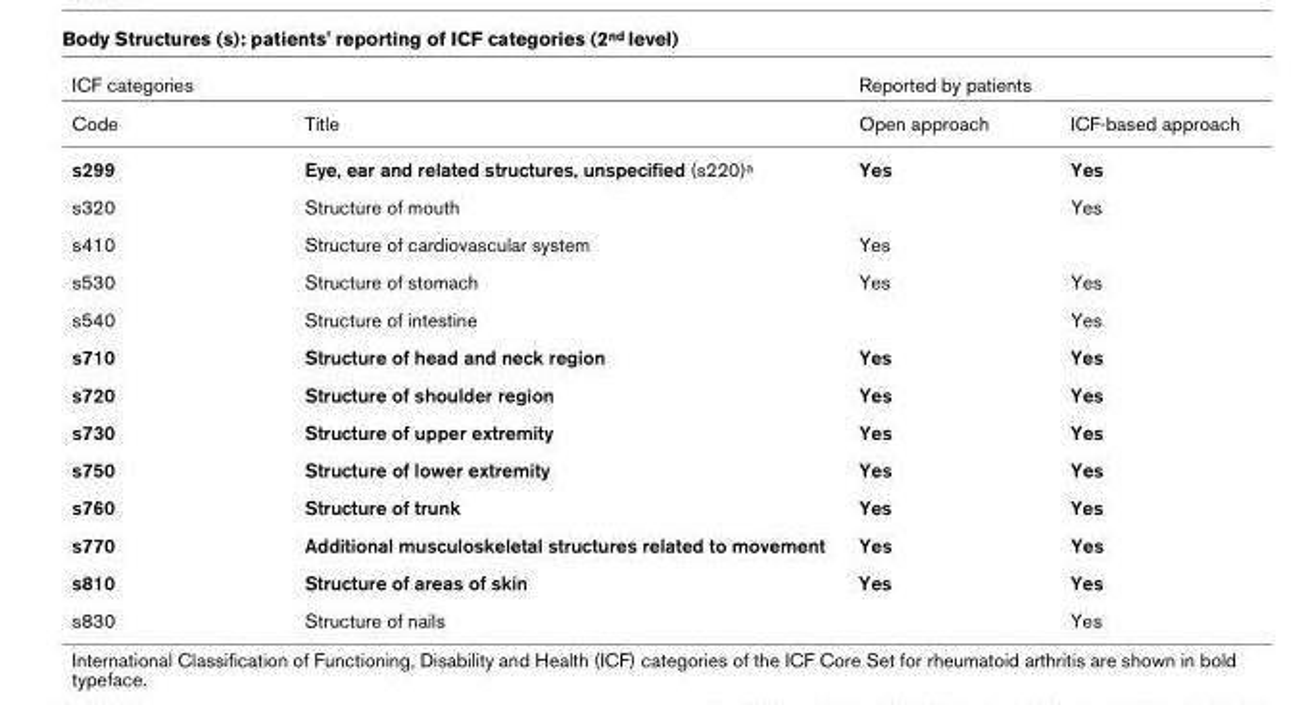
<table><thead><tr><td colspan="2">ICF categories</td><td colspan="2">Reported by patients</td></tr><tr><td>Code</td><td>Title</td><td>Open approach</td><td>ICF-based approach</td></tr></thead><tbody><tr><td>s299</td><td>Eye, ear and related structures, unspecified (s220)a</td><td>Yes</td><td>Yes</td></tr><tr><td>s320</td><td>Structure of mouth</td><td></td><td>Yes</td></tr><tr><td>s410</td><td>Structure of cardiovascular system</td><td>Yes</td><td></td></tr><tr><td>s530</td><td>Structure of stomach</td><td>Yes</td><td>Yes</td></tr><tr><td>s540</td><td>Structure of intestine</td><td></td><td>Yes</td></tr><tr><td>s710</td><td>Structure of head and neck region</td><td>Yes</td><td>Yes</td></tr><tr><td>s720</td><td>Structure of shoulder region</td><td>Yes</td><td>Yes</td></tr><tr><td>s730</td><td>Structure of upper extremity</td><td>Yes</td><td>Yes</td></tr><tr><td>s750</td><td>Structure of lower extremity</td><td>Yes</td><td>Yes</td></tr><tr><td>s760</td><td>Structure of trunk</td><td>Yes</td><td>Yes</td></tr><tr><td>s770</td><td>Additional musculoskeletal structures related to movement</td><td>Yes</td><td>Yes</td></tr><tr><td>s810</td><td>Structure of areas of skin</td><td>Yes</td><td>Yes</td></tr><tr><td>s830</td><td>Structure of nails</td><td></td><td>Yes</td></tr></tbody></table>